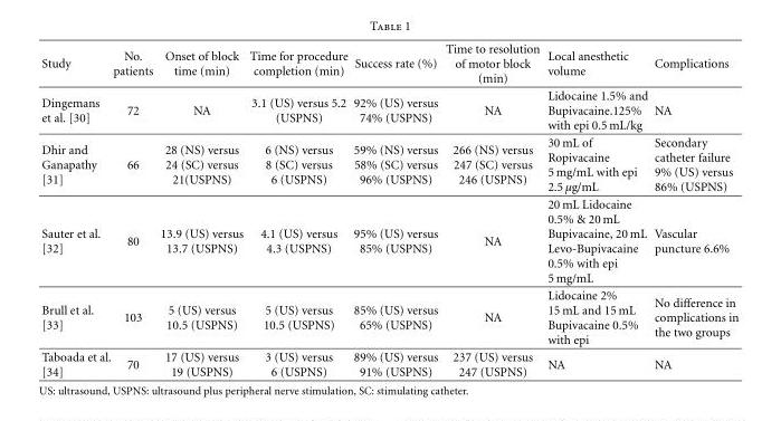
<table><thead><tr><td>Study</td><td>No. patients</td><td>Onset of block time (min)</td><td>Time for procedure completion (min)</td><td>Success rate (%)</td><td>Time to resolution of motor block (min)</td><td>Local anesthetic volume</td><td>Complications</td></tr></thead><tbody><tr><td>Dingemans et al. [30]</td><td>72</td><td>NA</td><td>3.1 (US) versus 5.2 (USPNS)</td><td>92% (US) versus 74% (USPNS)</td><td>NA</td><td>Lidocaine 1.5% and Bupivacaine.125% with epi 0.5 mL/kg</td><td>NA</td></tr><tr><td>Dhir and Ganapathy [31]</td><td>66</td><td>28 (NS) versus 24 (SC) versus 21(USPNS)</td><td>6 (NS) versus 8 (SC) versus 6 (USPNS)</td><td>59% (NS) versus 58% (SC) versus 96% (USPNS)</td><td>266 (NS) versus 247 (SC) versus 246 (USPNS)</td><td>30 mL of Ropivacaine 5 mg/mL with epi 2.5 µg/mL</td><td>Secondary catheter failure 9% (US) versus 86% (USPNS)</td></tr><tr><td>Sauter et al. [32]</td><td>80</td><td>13.9 (US) versus 13.7 (USPNS)</td><td>4.1 (US) versus 4.3 (USPNS)</td><td>95% (US) versus 85% (USPNS)</td><td>NA</td><td>20 mL Lidocaine 0.5% &amp; 20 mL Bupivacaine, 20 mL Levo-Bupivacaine 0.5% with epi 5 mg/mL</td><td>Vascular puncture 6.6%</td></tr><tr><td>Brull et al. [33]</td><td>103</td><td>5 (US) versus 10.5 (USPNS)</td><td>5 (US) versus 10.5 (USPNS)</td><td>85% (US) versus 65% (USPNS)</td><td>NA</td><td>Lidocaine 2% 15 mL and 15 mL Bupivacaine 0.5% with epi</td><td>No difference in complications in the two groups</td></tr><tr><td>Taboada et al. [34]</td><td>70</td><td>17 (US) versus 19 (USPNS)</td><td>3 (US) versus 6 (USPNS)</td><td>89% (US) versus 91% (USPNS)</td><td>237 (US) versus 247 (USPNS)</td><td>NA</td><td>NA</td></tr></tbody></table>